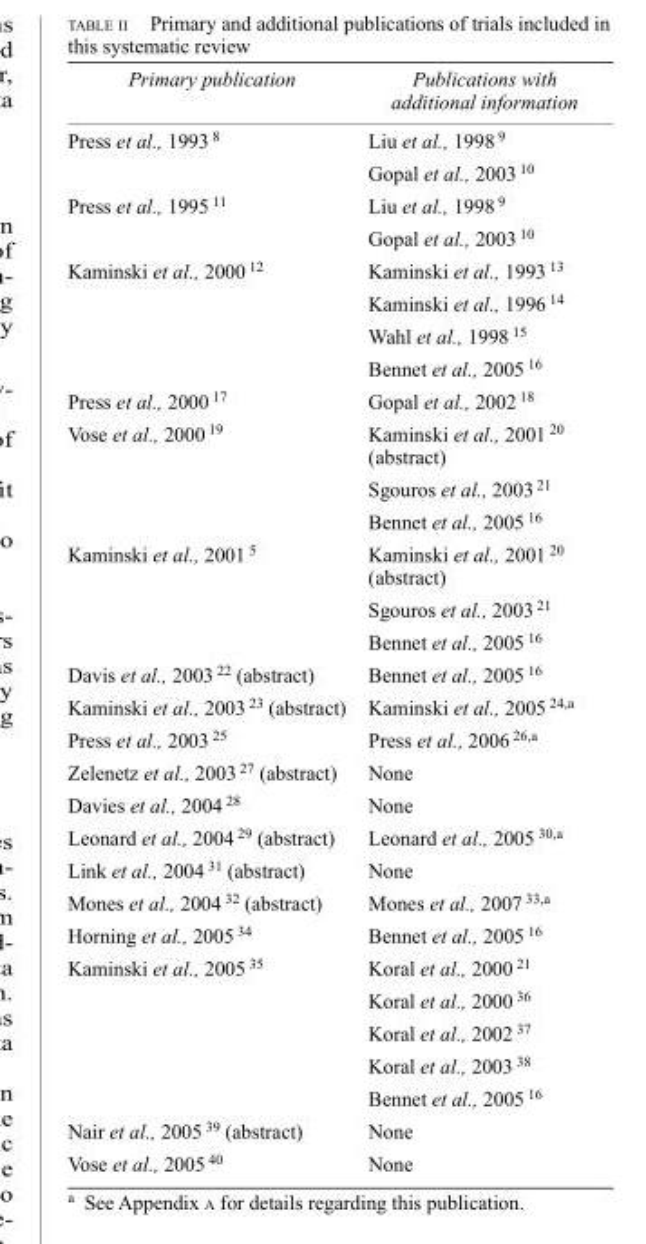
<table><thead><tr><td>Primary publication</td><td>Publications with additional information</td></tr></thead><tbody><tr><td rowspan="2">Press et al., 1993 <sup>8</sup></td><td>Liu et al., 1998 <sup>9</sup></td></tr><tr><td>Gopal et al., 2003 <sup>10</sup></td></tr><tr><td rowspan="2">Press et al., 1995 <sup>11</sup></td><td>Liu et al., 1998 <sup>9</sup></td></tr><tr><td>Gopal et al., 2003 <sup>10</sup></td></tr><tr><td rowspan="4">Kaminski et al., 2000 <sup>12</sup></td><td>Kaminski et al., 1993 <sup>13</sup></td></tr><tr><td>Kaminski et al., 1996 <sup>14</sup></td></tr><tr><td>Wahl et al., 1998 <sup>15</sup></td></tr><tr><td>Bennet et al., 2005 <sup>16</sup></td></tr><tr><td>Press et al., 2000 <sup>17</sup></td><td>Gopal et al., 2002 <sup>18</sup></td></tr><tr><td rowspan="3">Vose et al., 2000 <sup>19</sup></td><td>Kaminski et al., 2001 <sup>20</sup> (abstract)</td></tr><tr><td>Sgouros et al., 2003 <sup>21</sup></td></tr><tr><td>Bennet et al., 2005 <sup>16</sup></td></tr><tr><td rowspan="3">Kaminski et al., 2001 <sup>5</sup></td><td>Kaminski et al., 2001 <sup>20</sup> (abstract)</td></tr><tr><td>Sgouros et al., 2003 <sup>21</sup></td></tr><tr><td>Bennet et al., 2005 <sup>16</sup></td></tr><tr><td>Davis et al., 2003 <sup>22</sup> (abstract)</td><td>Bennet et al., 2005 <sup>16</sup></td></tr><tr><td>Kaminski et al., 2003 <sup>23</sup> (abstract)</td><td>Kaminski et al., 2005 <sup>24</sup>,<sup>a</sup></td></tr><tr><td>Press et al., 2003 <sup>25</sup></td><td>Press et al., 2006 <sup>26</sup>,<sup>a</sup></td></tr><tr><td>Zelenetz et al., 2003 <sup>27</sup> (abstract)</td><td>None</td></tr><tr><td>Davies et al., 2004 <sup>28</sup></td><td>None</td></tr><tr><td>Leonard et al., 2004 <sup>29</sup> (abstract)</td><td>Leonard et al., 2005 <sup>30</sup>,<sup>a</sup></td></tr><tr><td>Link et al., 2004 <sup>31</sup> (abstract)</td><td>None</td></tr><tr><td>Mones et al., 2004 <sup>32</sup> (abstract)</td><td>Mones et al., 2007 <sup>33</sup>,<sup>a</sup></td></tr><tr><td>Horning et al., 2005 <sup>34</sup></td><td>Bennet et al., 2005 <sup>16</sup></td></tr><tr><td rowspan="5">Kaminski et al., 2005 <sup>35</sup></td><td>Koral et al., 2000 <sup>21</sup></td></tr><tr><td>Koral et al., 2000 <sup>36</sup></td></tr><tr><td>Koral et al., 2002 <sup>37</sup></td></tr><tr><td>Koral et al., 2003 <sup>38</sup></td></tr><tr><td>Bennet et al., 2005 <sup>16</sup></td></tr><tr><td>Nair et al., 2005 <sup>39</sup> (abstract)</td><td>None</td></tr><tr><td>Vose et al., 2005 <sup>40</sup></td><td>None</td></tr></tbody></table>